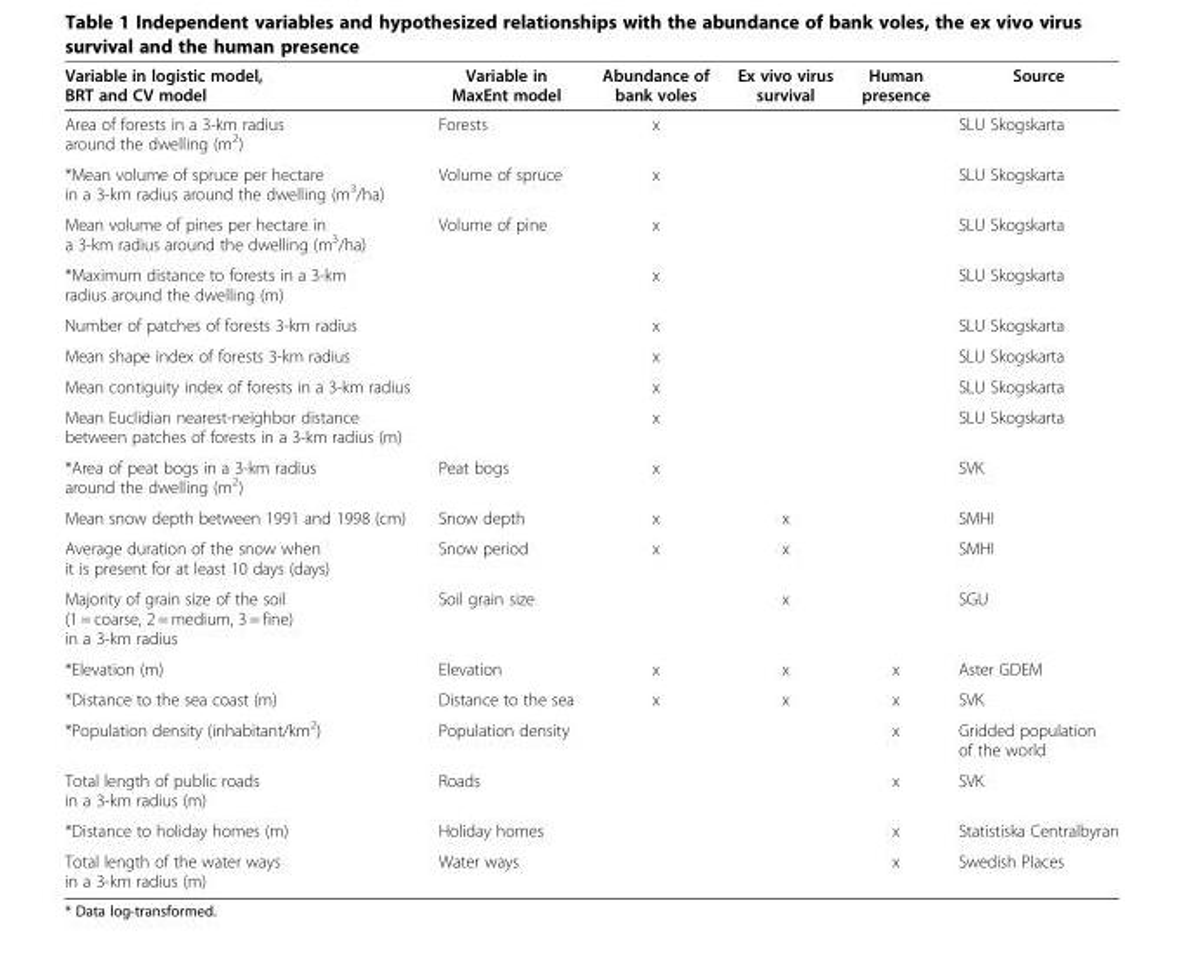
<table><thead><tr><td>Variable in logistic model, BRT and CV model</td><td>Variable in MaxEnt model</td><td>Abundance of bank voles</td><td>Ex vivo virus survival</td><td>Human presence</td><td>Source</td></tr></thead><tbody><tr><td>Area of forests in a 3-km radius around the dwelling (m<sup>2</sup>)</td><td>Forests</td><td>x</td><td></td><td></td><td>SLU Skogskarta</td></tr><tr><td>*Mean volume of spruce per hectare in a 3-km radius around the dwelling (m<sup>3</sup>/ha)</td><td>Volume of spruce</td><td>x</td><td></td><td></td><td>SLU Skogskarta</td></tr><tr><td>Mean volume of pines per hectare in a 3-km radius around the dwelling (m<sup>3</sup>/ha)</td><td>Volume of pine</td><td>x</td><td></td><td></td><td>SLU Skogskarta</td></tr><tr><td>*Maximum distance to forests in a 3-km radius around the dwelling (m)</td><td></td><td>x</td><td></td><td></td><td>SLU Skogskarta</td></tr><tr><td>Number of patches of forests 3-km radius</td><td></td><td>x</td><td></td><td></td><td>SLU Skogskarta</td></tr><tr><td>Mean shape index of forests 3-km radius</td><td></td><td>x</td><td></td><td></td><td>SLU Skogskarta</td></tr><tr><td>Mean contiguity index of forests in a 3-km radius</td><td></td><td>x</td><td></td><td></td><td>SLU Skogskarta</td></tr><tr><td>Mean Euclidian nearest-neighbor distance between patches of forests in a 3-km radius (m)</td><td></td><td>x</td><td></td><td></td><td>SLU Skogskarta</td></tr><tr><td>*Area of peat bogs in a 3-km radius around the dwelling (m<sup>2</sup>)</td><td>Peat bogs</td><td>x</td><td></td><td></td><td>SVK</td></tr><tr><td>Mean snow depth between 1991 and 1998 (cm)</td><td>Snow depth</td><td>x</td><td>x</td><td></td><td>SMHI</td></tr><tr><td>Average duration of the snow when it is present for at least 10 days (days)</td><td>Snow period</td><td>x</td><td>x</td><td></td><td>SMHI</td></tr><tr><td>Majority of grain size of the soil (1 = coarse, 2 = medium, 3 = fine) in a 3-km radius</td><td>Soil grain size</td><td></td><td>x</td><td></td><td>SGU</td></tr><tr><td>*Elevation (m)</td><td>Elevation</td><td>x</td><td>x</td><td>x</td><td>Aster GDEM</td></tr><tr><td>*Distance to the sea coast (m)</td><td>Distance to the sea</td><td>x</td><td>x</td><td>x</td><td>SVK</td></tr><tr><td>*Population density (inhabitant/km<sup>2</sup>)</td><td>Population density</td><td></td><td></td><td>x</td><td>Gridded population of the world</td></tr><tr><td>Total length of public roads in a 3-km radius (m)</td><td>Roads</td><td></td><td></td><td>x</td><td>SVK</td></tr><tr><td>*Distance to holiday homes (m)</td><td>Holiday homes</td><td></td><td></td><td>x</td><td>Statistiska Centralbyran</td></tr><tr><td>Total length of the water ways in a 3-km radius (m)</td><td>Water ways</td><td></td><td></td><td>x</td><td>Swedish Places</td></tr></tbody></table>